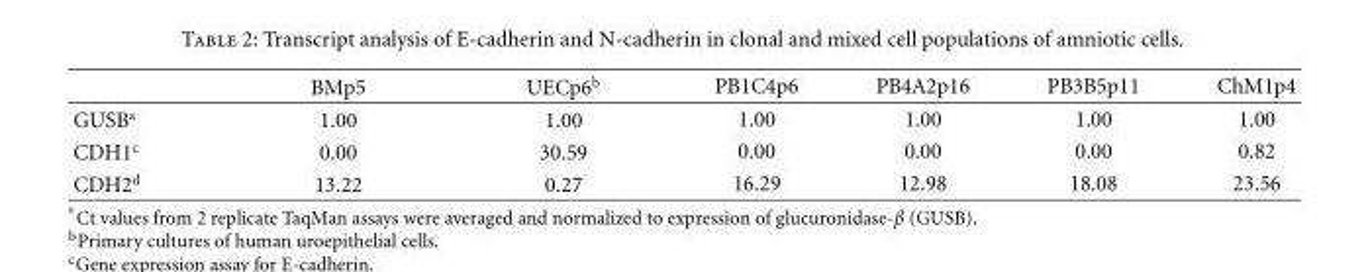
<table><thead><tr><td></td><td>BMp5</td><td>UECp6<sup>b</sup></td><td>PB1C4p6</td><td>PB4A2p16</td><td>PB3B5p11</td><td>ChM1p4</td></tr></thead><tbody><tr><td>GUSB<sup>a</sup></td><td>1.00</td><td>1.00</td><td>1.00</td><td>1.00</td><td>1.00</td><td>1.00</td></tr><tr><td>CDH1<sup>c</sup></td><td>0.00</td><td>30.59</td><td>0.00</td><td>0.00</td><td>0.00</td><td>0.82</td></tr><tr><td>CDH2<sup>d</sup></td><td>13.22</td><td>0.27</td><td>16.29</td><td>12.98</td><td>18.08</td><td>23.56</td></tr></tbody></table>